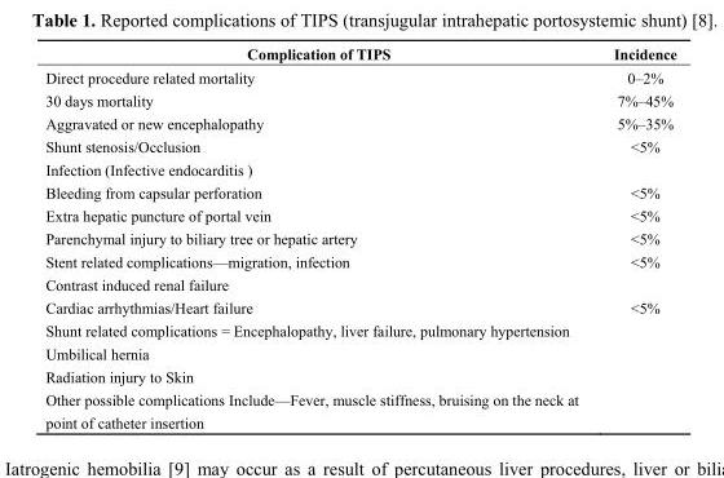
<table><thead><tr><td>Complication of TIPS</td><td>Incidence</td></tr></thead><tbody><tr><td>Direct procedure related mortality</td><td>0–2%</td></tr><tr><td>30 days mortality</td><td>7%–45%</td></tr><tr><td>Aggravated or new encephalopathy</td><td>5%–35%</td></tr><tr><td>Shunt stenosis/Occlusion</td><td>&lt;5%</td></tr><tr><td colspan="2">Infection (Infective endocarditis )</td></tr><tr><td>Bleeding from capsular perforation</td><td>&lt;5%</td></tr><tr><td>Extra hepatic puncture of portal vein</td><td>&lt;5%</td></tr><tr><td>Parenchymal injury to biliary tree or hepatic artery</td><td>&lt;5%</td></tr><tr><td>Stent related complications—migration, infection</td><td>&lt;5%</td></tr><tr><td colspan="2">Contrast induced renal failure</td></tr><tr><td>Cardiac arrhythmias/Heart failure</td><td>&lt;5%</td></tr><tr><td colspan="2">Shunt related complications = Encephalopathy, liver failure, pulmonary hypertension</td></tr><tr><td colspan="2">Umbilical hernia</td></tr><tr><td colspan="2">Radiation injury to Skin</td></tr><tr><td>Other possible complications Include—Fever, muscle stiffness, bruising on the neck at point of catheter insertion</td><td></td></tr></tbody></table>